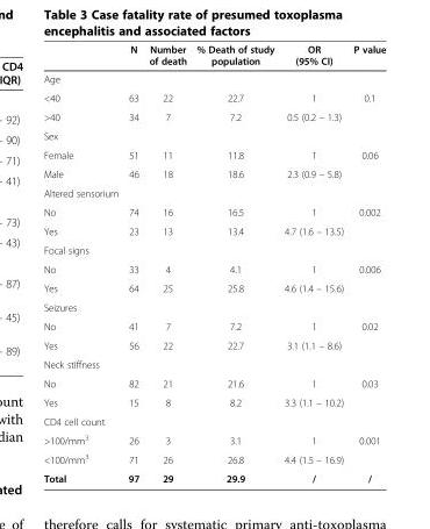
<table><thead><tr><td></td><td>N</td><td>Number of death</td><td>% Death of study population</td><td>OR (95% CI)</td><td>P value</td></tr></thead><tbody><tr><td colspan="6">Age</td></tr><tr><td>&lt;40</td><td>63</td><td>22</td><td>22.7</td><td>1</td><td rowspan="2">0.1</td></tr><tr><td>&gt;40</td><td>34</td><td>7</td><td>7.2</td><td>0.5 (0.2 – 1.3)</td></tr><tr><td colspan="6">Sex</td></tr><tr><td>Female</td><td>51</td><td>11</td><td>11.8</td><td>1</td><td rowspan="2">0.06</td></tr><tr><td>Male</td><td>46</td><td>18</td><td>18.6</td><td>2.3 (0.9 – 5.8)</td></tr><tr><td colspan="6">Altered sensorium</td></tr><tr><td>No</td><td>74</td><td>16</td><td>16.5</td><td>1</td><td rowspan="2">0.002</td></tr><tr><td>Yes</td><td>23</td><td>13</td><td>13.4</td><td>4.7 (1.6 – 13.5)</td></tr><tr><td colspan="6">Focal signs</td></tr><tr><td>No</td><td>33</td><td>4</td><td>4.1</td><td>1</td><td rowspan="2">0.006</td></tr><tr><td>Yes</td><td>64</td><td>25</td><td>25.8</td><td>4.6 (1.4 – 15.6)</td></tr><tr><td colspan="6">Seizures</td></tr><tr><td>No</td><td>41</td><td>7</td><td>7.2</td><td>1</td><td rowspan="2">0.02</td></tr><tr><td>Yes</td><td>56</td><td>22</td><td>22.7</td><td>3.1 (1.1 – 8.6)</td></tr><tr><td colspan="6">Neck stiffness</td></tr><tr><td>No</td><td>82</td><td>21</td><td>21.6</td><td>1</td><td rowspan="2">0.03</td></tr><tr><td>Yes</td><td>15</td><td>8</td><td>8.2</td><td>3.3 (1.1 – 10.2)</td></tr><tr><td colspan="6">CD4 cell count</td></tr><tr><td>&gt;100/mm<sup>3</sup></td><td>26</td><td>3</td><td>3.1</td><td>1</td><td rowspan="2">0.001</td></tr><tr><td>&lt;100/mm<sup>3</sup></td><td>71</td><td>26</td><td>26.8</td><td>4.4 (1.5 – 16.9)</td></tr><tr><td>Total</td><td>97</td><td>29</td><td>29.9</td><td>/</td><td>/</td></tr></tbody></table>